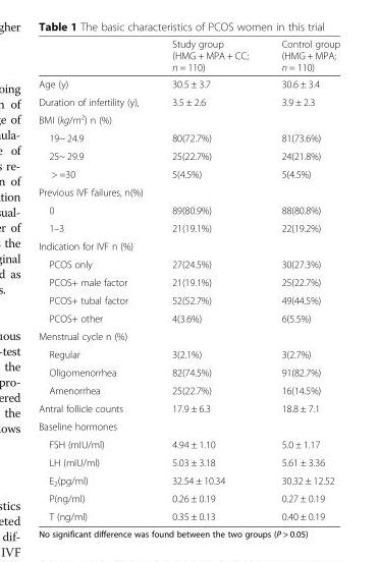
<table><thead><tr><td></td><td>Study group (HMG + MPA + CC; n = 110)</td><td>Control group (HMG + MPA; n = 110)</td></tr></thead><tbody><tr><td>Age (y)</td><td>30.5 ± 3.7</td><td>30.6 ± 3.4</td></tr><tr><td>Duration of infertility (y),</td><td>3.5 ± 2.6</td><td>3.9 ± 2.3</td></tr><tr><td colspan="3">BMI (kg/m<sup>2</sup>) n (%)</td></tr><tr><td>19~ 24.9</td><td>80(72.7%)</td><td>81(73.6%)</td></tr><tr><td>25~ 29.9</td><td>25(22.7%)</td><td>24(21.8%)</td></tr><tr><td>&gt; =30</td><td>5(4.5%)</td><td>5(4.5%)</td></tr><tr><td colspan="3">Previous IVF failures, n(%)</td></tr><tr><td>0</td><td>89(80.9%)</td><td>88(80.8%)</td></tr><tr><td>1–3</td><td>21(19.1%)</td><td>22(19.2%)</td></tr><tr><td colspan="3">Indication for IVF n (%)</td></tr><tr><td>PCOS only</td><td>27(24.5%)</td><td>30(27.3%)</td></tr><tr><td>PCOS+ male factor</td><td>21(19.1%)</td><td>25(22.7%)</td></tr><tr><td>PCOS+ tubal factor</td><td>52(52.7%)</td><td>49(44.5%)</td></tr><tr><td>PCOS+ other</td><td>4(3.6%)</td><td>6(5.5%)</td></tr><tr><td colspan="3">Menstrual cycle n (%)</td></tr><tr><td>Regular</td><td>3(2.1%)</td><td>3(2.7%)</td></tr><tr><td>Oligomenorrhea</td><td>82(74.5%)</td><td>91(82.7%)</td></tr><tr><td>Amenorrhea</td><td>25(22.7%)</td><td>16(14.5%)</td></tr><tr><td>Antral follicle counts</td><td>17.9 ± 6.3</td><td>18.8 ± 7.1</td></tr><tr><td colspan="3">Baseline hormones</td></tr><tr><td>FSH (mIU/ml)</td><td>4.94 ± 1.10</td><td>5.0 ± 1.17</td></tr><tr><td>LH (mIU/ml)</td><td>5.03 ± 3.18</td><td>5.61 ± 3.36</td></tr><tr><td>E<sub>2</sub>(pg/ml)</td><td>32.54 ± 10.34</td><td>30.32 ± 12.52</td></tr><tr><td>P(ng/ml)</td><td>0.26 ± 0.19</td><td>0.27 ± 0.19</td></tr><tr><td>T (ng/ml)</td><td>0.35 ± 0.13</td><td>0.40 ± 0.19</td></tr></tbody></table>